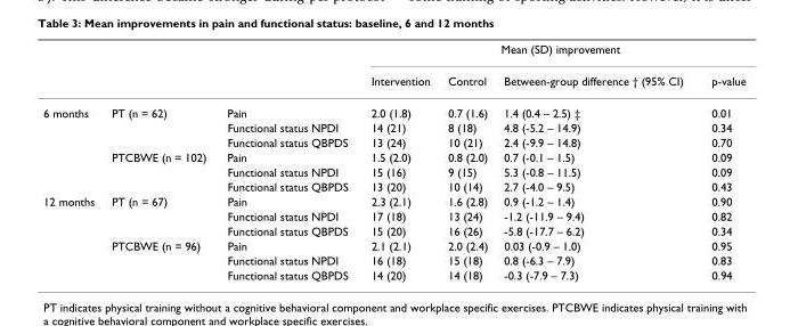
<table><thead><tr><td rowspan="2"></td><td rowspan="2"></td><td rowspan="2"></td><td colspan="4">Mean (SD) improvement</td></tr><tr><td>Intervention</td><td>Control</td><td>Between-group difference † (95% CI)</td><td>p-value</td></tr></thead><tbody><tr><td rowspan="6">6 months</td><td>PT (n = 62)</td><td>Pain</td><td>2.0 (1.8)</td><td>0.7 (1.6)</td><td>1.4 (0.4 – 2.5) ‡</td><td>0.01</td></tr><tr><td></td><td>Functional status NPDI</td><td>14 (21)</td><td>8 (18)</td><td>4.8 (-5.2 – 14.9)</td><td>0.34</td></tr><tr><td></td><td>Functional status QBPDS</td><td>13 (24)</td><td>10 (21)</td><td>2.4 (-9.9 – 14.8)</td><td>0.70</td></tr><tr><td>PTCBWE (n = 102)</td><td>Pain</td><td>1.5 (2.0)</td><td>0.8 (2.0)</td><td>0.7 (-0.1 – 1.5)</td><td>0.09</td></tr><tr><td></td><td>Functional status NPDI</td><td>15 (16)</td><td>9 (15)</td><td>5.3 (-0.8 – 11.5)</td><td>0.09</td></tr><tr><td></td><td>Functional status QBPDS</td><td>13 (20)</td><td>10 (14)</td><td>2.7 (-4.0 – 9.5)</td><td>0.43</td></tr><tr><td rowspan="6">12 months</td><td>PT (n = 67)</td><td>Pain</td><td>2.3 (2.1)</td><td>1.6 (2.8)</td><td>0.9 (-1.2 – 1.4)</td><td>0.90</td></tr><tr><td></td><td>Functional status NPDI</td><td>17 (18)</td><td>13 (24)</td><td>-1.2 (-11.9 – 9.4)</td><td>0.82</td></tr><tr><td></td><td>Functional status QBPDS</td><td>15 (20)</td><td>16 (26)</td><td>-5.8 (-17.7 – 6.2)</td><td>0.34</td></tr><tr><td>PTCBWE (n = 96)</td><td>Pain</td><td>2.1 (2.1)</td><td>2.0 (2.4)</td><td>0.03 (-0.9 – 1.0)</td><td>0.95</td></tr><tr><td></td><td>Functional status NPDI</td><td>16 (18)</td><td>15 (18)</td><td>0.8 (-6.3 – 7.9)</td><td>0.83</td></tr><tr><td></td><td>Functional status QBPDS</td><td>14 (20)</td><td>14 (18)</td><td>-0.3 (-7.9 – 7.3)</td><td>0.94</td></tr></tbody></table>